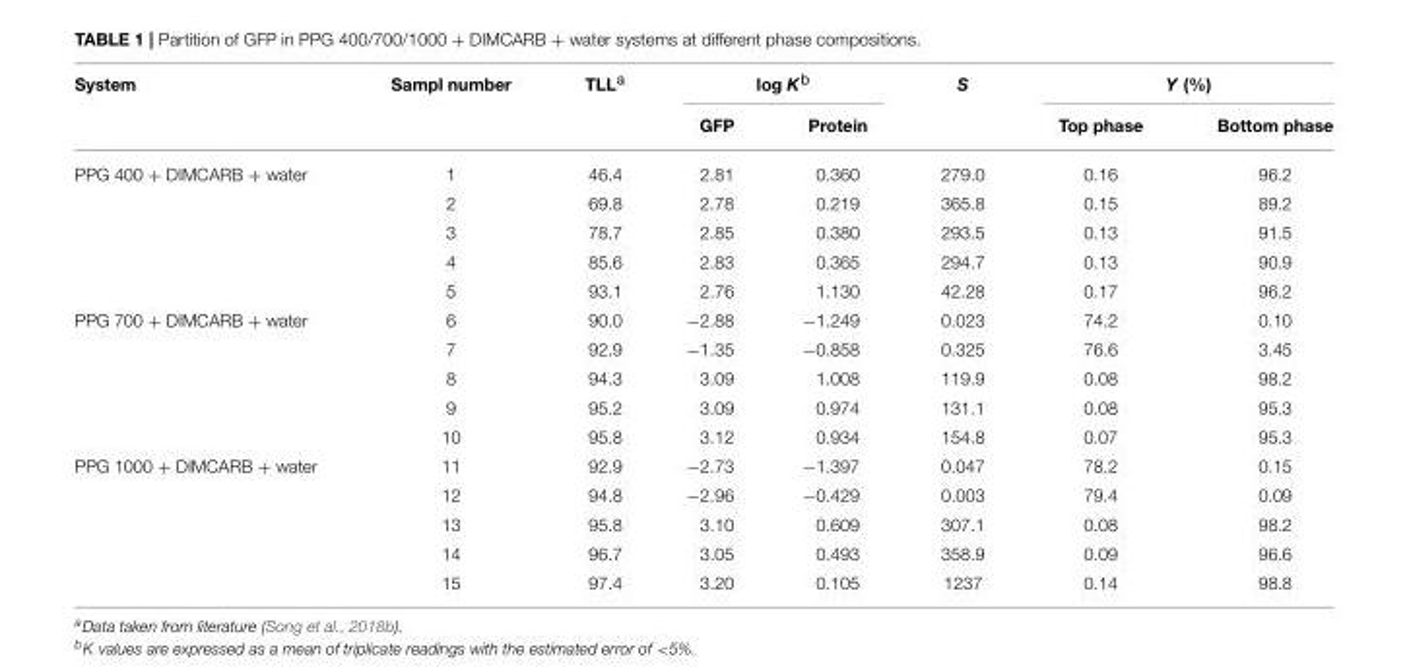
<table><thead><tr><td rowspan="2">System</td><td rowspan="2">Sampl number</td><td rowspan="2">TLL<sup>a</sup></td><td colspan="2">log K<sup>b</sup></td><td rowspan="2">S</td><td colspan="2">Y (%)</td></tr><tr><td>GFP</td><td>Protein</td><td>Top phase</td><td>Bottom phase</td></tr></thead><tbody><tr><td rowspan="5">PPG 400 + DIMCARB + water</td><td>1</td><td>46.4</td><td>2.81</td><td>0.360</td><td>279.0</td><td>0.16</td><td>96.2</td></tr><tr><td>2</td><td>69.8</td><td>2.78</td><td>0.219</td><td>365.8</td><td>0.15</td><td>89.2</td></tr><tr><td>3</td><td>78.7</td><td>2.85</td><td>0.380</td><td>293.5</td><td>0.13</td><td>91.5</td></tr><tr><td>4</td><td>85.6</td><td>2.83</td><td>0.365</td><td>294.7</td><td>0.13</td><td>90.9</td></tr><tr><td>5</td><td>93.1</td><td>2.76</td><td>1.130</td><td>42.28</td><td>0.17</td><td>96.2</td></tr><tr><td rowspan="5">PPG 700 + DIMCARB + water</td><td>6</td><td>90.0</td><td>−2.88</td><td>−1.249</td><td>0.023</td><td>74.2</td><td>0.10</td></tr><tr><td>7</td><td>92.9</td><td>−1.35</td><td>−0.858</td><td>0.325</td><td>76.6</td><td>3.45</td></tr><tr><td>8</td><td>94.3</td><td>3.09</td><td>1.008</td><td>119.9</td><td>0.08</td><td>98.2</td></tr><tr><td>9</td><td>95.2</td><td>3.09</td><td>0.974</td><td>131.1</td><td>0.08</td><td>95.3</td></tr><tr><td>10</td><td>95.8</td><td>3.12</td><td>0.934</td><td>154.8</td><td>0.07</td><td>95.3</td></tr><tr><td rowspan="5">PPG 1000 + DIMCARB + water</td><td>11</td><td>92.9</td><td>−2.73</td><td>−1.397</td><td>0.047</td><td>78.2</td><td>0.15</td></tr><tr><td>12</td><td>94.8</td><td>−2.96</td><td>−0.429</td><td>0.003</td><td>79.4</td><td>0.09</td></tr><tr><td>13</td><td>95.8</td><td>3.10</td><td>0.609</td><td>307.1</td><td>0.08</td><td>98.2</td></tr><tr><td>14</td><td>96.7</td><td>3.05</td><td>0.493</td><td>358.9</td><td>0.09</td><td>96.6</td></tr><tr><td>15</td><td>97.4</td><td>3.20</td><td>0.105</td><td>1237</td><td>0.14</td><td>98.8</td></tr></tbody></table>